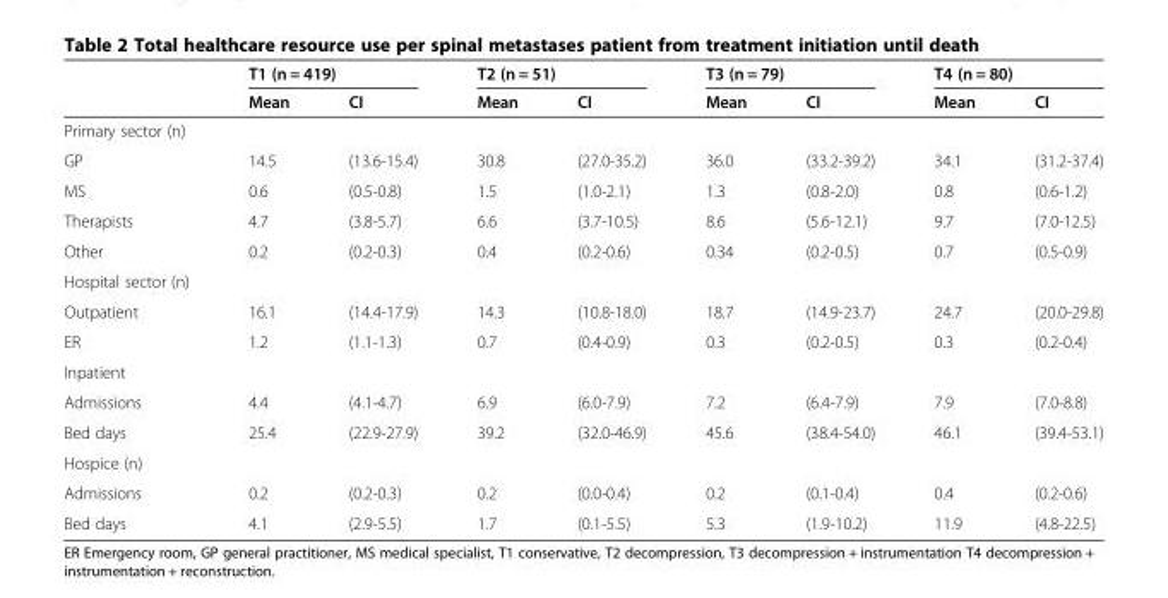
<table><thead><tr><td rowspan="2"></td><td colspan="2">T1 (n = 419)</td><td colspan="2">T2 (n = 51)</td><td colspan="2">T3 (n = 79)</td><td colspan="2">T4 (n = 80)</td></tr><tr><td>Mean</td><td>CI</td><td>Mean</td><td>CI</td><td>Mean</td><td>CI</td><td>Mean</td><td>CI</td></tr></thead><tbody><tr><td colspan="9">Primary sector (n)</td></tr><tr><td>GP</td><td>14.5</td><td>(13.6-15.4)</td><td>30.8</td><td>(27.0-35.2)</td><td>36.0</td><td>(33.2-39.2)</td><td>34.1</td><td>(31.2-37.4)</td></tr><tr><td>MS</td><td>0.6</td><td>(0.5-0.8)</td><td>1.5</td><td>(1.0-2.1)</td><td>1.3</td><td>(0.8-2.0)</td><td>0.8</td><td>(0.6-1.2)</td></tr><tr><td>Therapists</td><td>4.7</td><td>(3.8-5.7)</td><td>6.6</td><td>(3.7-10.5)</td><td>8.6</td><td>(5.6-12.1)</td><td>9.7</td><td>(7.0-12.5)</td></tr><tr><td>Other</td><td>0.2</td><td>(0.2-0.3)</td><td>0.4</td><td>(0.2-0.6)</td><td>0.34</td><td>(0.2-0.5)</td><td>0.7</td><td>(0.5-0.9)</td></tr><tr><td colspan="9">Hospital sector (n)</td></tr><tr><td>Outpatient</td><td>16.1</td><td>(14.4-17.9)</td><td>14.3</td><td>(10.8-18.0)</td><td>18.7</td><td>(14.9-23.7)</td><td>24.7</td><td>(20.0-29.8)</td></tr><tr><td>ER</td><td>1.2</td><td>(1.1-1.3)</td><td>0.7</td><td>(0.4-0.9)</td><td>0.3</td><td>(0.2-0.5)</td><td>0.3</td><td>(0.2-0.4)</td></tr><tr><td colspan="9">Inpatient</td></tr><tr><td>Admissions</td><td>4.4</td><td>(4.1-4.7)</td><td>6.9</td><td>(6.0-7.9)</td><td>7.2</td><td>(6.4-7.9)</td><td>7.9</td><td>(7.0-8.8)</td></tr><tr><td>Bed days</td><td>25.4</td><td>(22.9-27.9)</td><td>39.2</td><td>(32.0-46.9)</td><td>45.6</td><td>(38.4-54.0)</td><td>46.1</td><td>(39.4-53.1)</td></tr><tr><td colspan="9">Hospice (n)</td></tr><tr><td>Admissions</td><td>0.2</td><td>(0.2-0.3)</td><td>0.2</td><td>(0.0-0.4)</td><td>0.2</td><td>(0.1-0.4)</td><td>0.4</td><td>(0.2-0.6)</td></tr><tr><td>Bed days</td><td>4.1</td><td>(2.9-5.5)</td><td>1.7</td><td>(0.1-5.5)</td><td>5.3</td><td>(1.9-10.2)</td><td>11.9</td><td>(4.8-22.5)</td></tr></tbody></table>